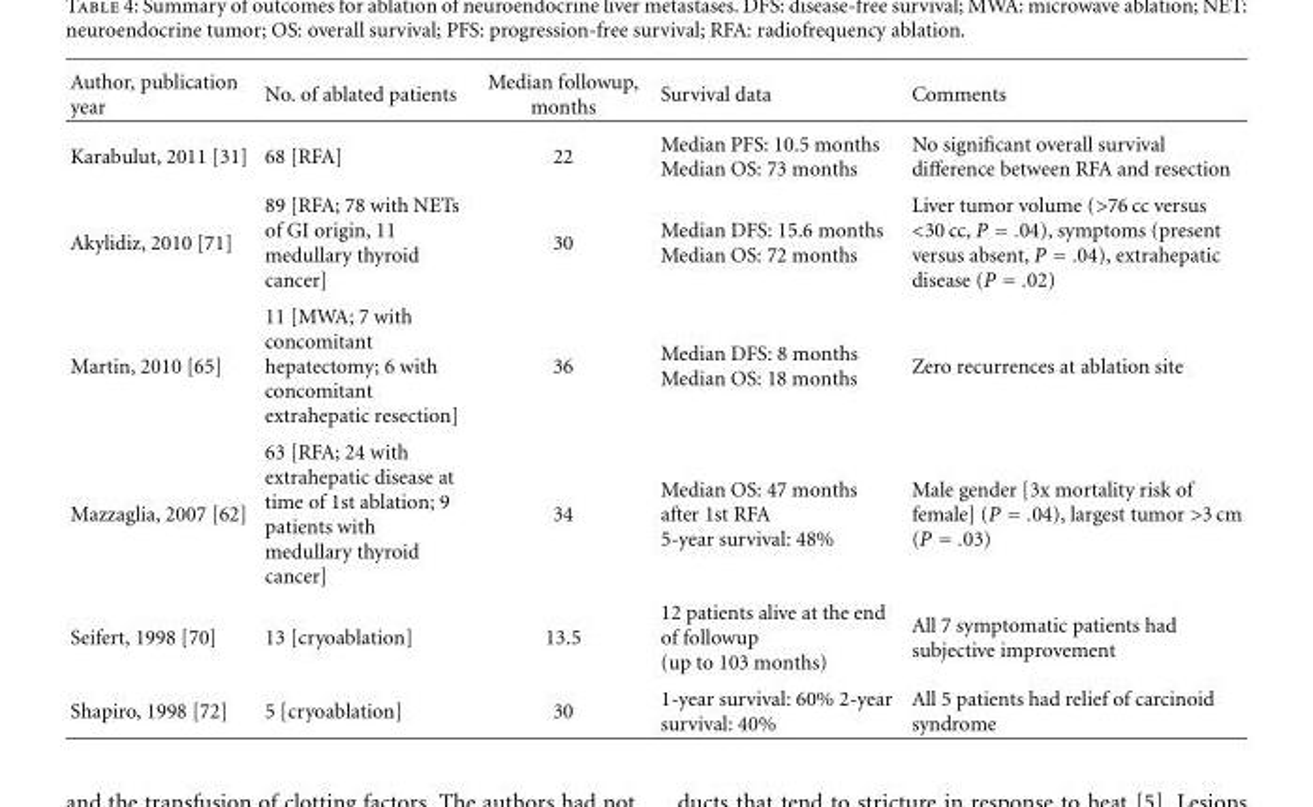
<table><thead><tr><td>Author, publication year</td><td>No. of ablated patients</td><td>Median followup, months</td><td>Survival data</td><td>Comments</td></tr></thead><tbody><tr><td>Karabulut, 2011 [31]</td><td>68 [RFA]</td><td>22</td><td>Median PFS: 10.5 months Median OS: 73 months</td><td>No significant overall survival difference between RFA and resection</td></tr><tr><td>Akylidiz, 2010 [71]</td><td>89 [RFA; 78 with NETs of GI origin, 11 medullary thyroid cancer]</td><td>30</td><td>Median DFS: 15.6 months Median OS: 72 months</td><td>Liver tumor volume (&gt;76 cc versus &lt;30 cc, P = .04), symptoms (present versus absent, P = .04), extrahepatic disease (P = .02)</td></tr><tr><td>Martin, 2010 [65]</td><td>11 [MWA; 7 with concomitant hepatectomy; 6 with concomitant extrahepatic resection]</td><td>36</td><td>Median DFS: 8 months Median OS: 18 months</td><td>Zero recurrences at ablation site</td></tr><tr><td>Mazzaglia, 2007 [62]</td><td>63 [RFA; 24 with extrahepatic disease at time of 1st ablation; 9 patients with medullary thyroid cancer]</td><td>34</td><td>Median OS: 47 months after 1st RFA 5-year survival: 48%</td><td>Male gender [3x mortality risk of female] (P = .04), largest tumor &gt;3 cm (P = .03)</td></tr><tr><td>Seifert, 1998 [70]</td><td>13 [cryoablation]</td><td>13.5</td><td>12 patients alive at the end of followup (up to 103 months)</td><td>All 7 symptomatic patients had subjective improvement</td></tr><tr><td>Shapiro, 1998 [72]</td><td>5 [cryoablation]</td><td>30</td><td>1-year survival: 60% 2-year survival: 40%</td><td>All 5 patients had relief of carcinoid syndrome</td></tr></tbody></table>